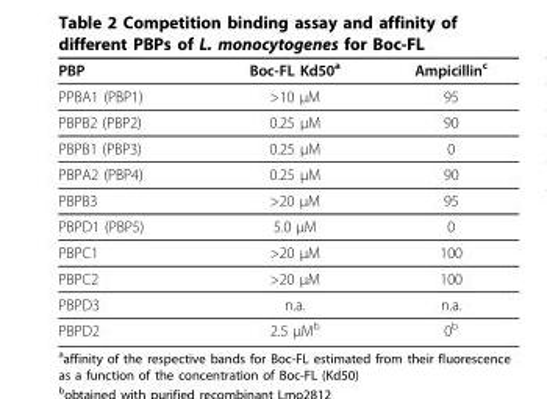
<table><thead><tr><td>PBP</td><td>Boc-FL Kd50<sup>a</sup></td><td>Ampicillin<sup>c</sup></td></tr></thead><tbody><tr><td>PPBA1 (PBP1)</td><td>&gt;10 μM</td><td>95</td></tr><tr><td>PBPB2 (PBP2)</td><td>0.25 μM</td><td>90</td></tr><tr><td>PBPB1 (PBP3)</td><td>0.25 μM</td><td>0</td></tr><tr><td>PBPA2 (PBP4)</td><td>0.25 μM</td><td>90</td></tr><tr><td>PBPB3</td><td>&gt;20 μM</td><td>95</td></tr><tr><td>PBPD1 (PBP5)</td><td>5.0 μM</td><td>0</td></tr><tr><td>PBPC1</td><td>&gt;20 μM</td><td>100</td></tr><tr><td>PBPC2</td><td>&gt;20 μM</td><td>100</td></tr><tr><td>PBPD3</td><td>n.a.</td><td>n.a.</td></tr><tr><td>PBPD2</td><td>2.5 μM<sup>b</sup></td><td>0<sup>b</sup></td></tr></tbody></table>